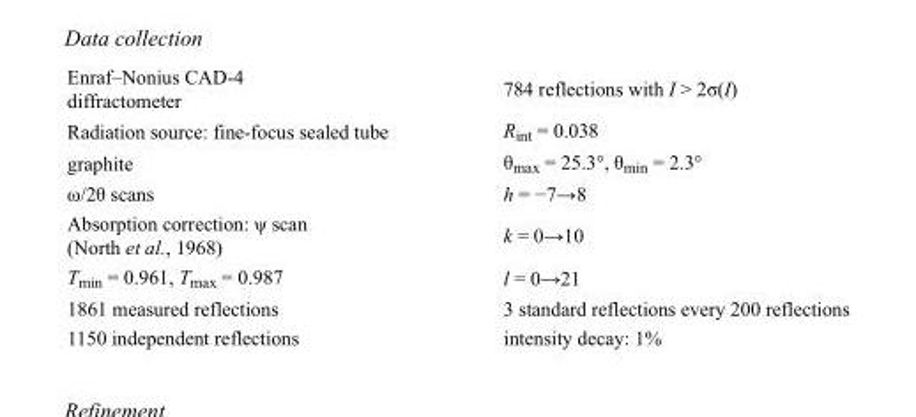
<table><tbody><tr><td>Enraf–Nonius CAD-4 diffractometer</td><td>784 reflections with I &gt; 2σ(I)</td></tr><tr><td>Radiation source: fine-focus sealed tube</td><td>R<sub>int</sub> = 0.038</td></tr><tr><td>graphite</td><td>θ<sub>max</sub> = 25.3°, θ<sub>min</sub> = 2.3°</td></tr><tr><td>ω/2θ scans</td><td>h = −7→8</td></tr><tr><td>Absorption correction: ψ scan (North et al., 1968)</td><td>k = 0→10</td></tr><tr><td>T<sub>min</sub> = 0.961, T<sub>max</sub> = 0.987</td><td>l = 0→21</td></tr><tr><td>1861 measured reflections</td><td>3 standard reflections every 200 reflections</td></tr><tr><td>1150 independent reflections</td><td>intensity decay: 1%</td></tr></tbody></table>